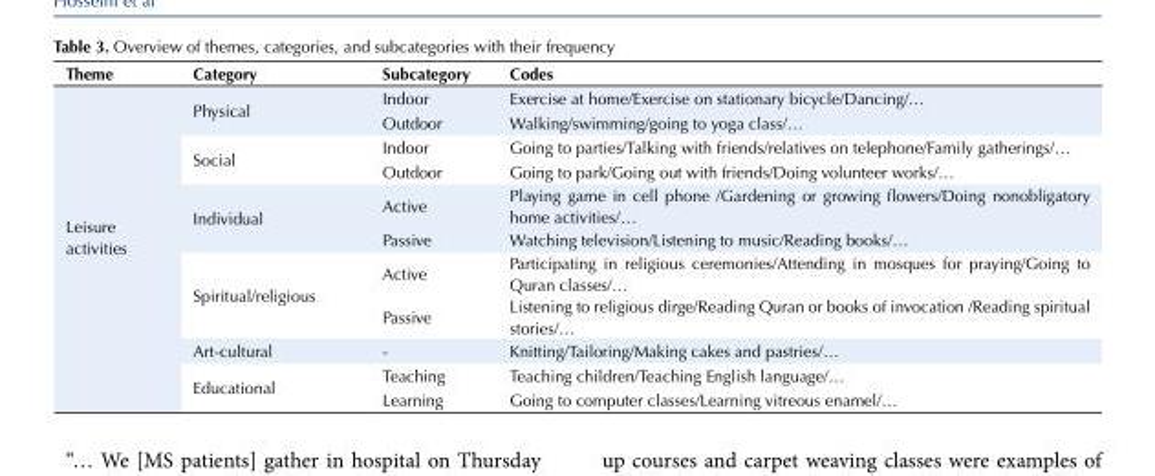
<table><tbody><tr><td>Theme</td><td>Category</td><td>Subcategory</td><td>Codes</td></tr><tr><td rowspan="11">Leisure activities</td><td rowspan="2">Physical</td><td>Indoor</td><td>Exercise at home/Exercise on stationary bicycle/Dancing/…</td></tr><tr><td>Outdoor</td><td>Walking/swimming/going to yoga class/…</td></tr><tr><td rowspan="2">Social</td><td>Indoor</td><td>Going to parties/Talking with friends/relatives on telephone/Family gatherings/…</td></tr><tr><td>Outdoor</td><td>Going to park/Going out with friends/Doing volunteer works/…</td></tr><tr><td rowspan="2">Individual</td><td>Active</td><td>Playing game in cell phone /Gardening or growing flowers/Doing nonobligatory home activities/…</td></tr><tr><td>Passive</td><td>Watching television/Listening to music/Reading books/…</td></tr><tr><td rowspan="2">Spiritual/religious</td><td>Active</td><td>Participating in religious ceremonies/Attending in mosques for praying/Going to Quran classes/…</td></tr><tr><td>Passive</td><td>Listening to religious dirge/Reading Quran or books of invocation /Reading spiritual stories/…</td></tr><tr><td>Art-cultural</td><td>-</td><td>Knitting/Tailoring/Making cakes and pastries/…</td></tr><tr><td rowspan="2">Educational</td><td>Teaching</td><td>Teaching children/Teaching English language/…</td></tr><tr><td>Learning</td><td>Going to computer classes/Learning vitreous enamel/…</td></tr></tbody></table>